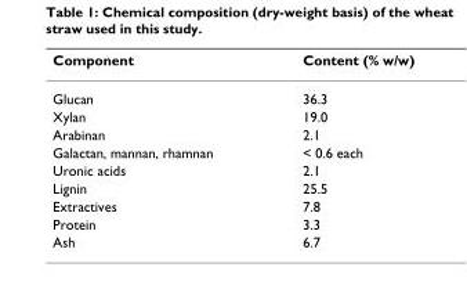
<table><thead><tr><td>Component</td><td>Content (% w/w)</td></tr></thead><tbody><tr><td>Glucan</td><td>36.3</td></tr><tr><td>Xylan</td><td>19.0</td></tr><tr><td>Arabinan</td><td>2.1</td></tr><tr><td>Galactan, mannan, rhamnan</td><td>&lt; 0.6 each</td></tr><tr><td>Uronic acids</td><td>2.1</td></tr><tr><td>Lignin</td><td>25.5</td></tr><tr><td>Extractives</td><td>7.8</td></tr><tr><td>Protein</td><td>3.3</td></tr><tr><td>Ash</td><td>6.7</td></tr></tbody></table>